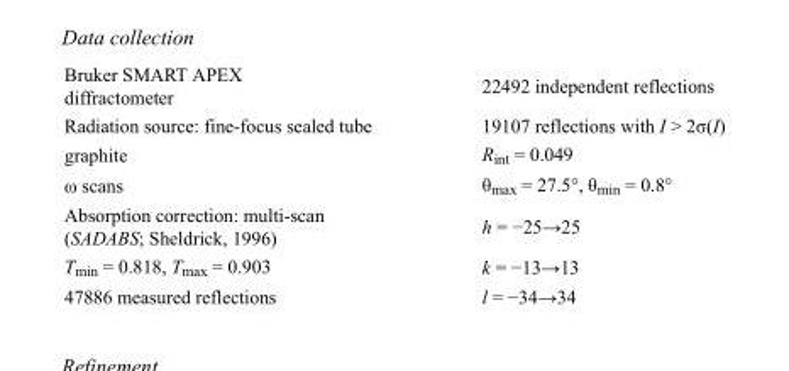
<table><tbody><tr><td>Bruker SMART APEX diffractometer</td><td>22492 independent reflections</td></tr><tr><td>Radiation source: fine-focus sealed tube</td><td>19107 reflections with I &gt; 2σ(I)</td></tr><tr><td>graphite</td><td>R<sub>int</sub> = 0.049</td></tr><tr><td>ω scans</td><td>θ<sub>max</sub> = 27.5°, θ<sub>min</sub> = 0.8°</td></tr><tr><td>Absorption correction: multi-scan (SADABS; Sheldrick, 1996)</td><td>h = −25→25</td></tr><tr><td>T<sub>min</sub> = 0.818, T<sub>max</sub> = 0.903</td><td>k = −13→13</td></tr><tr><td>47886 measured reflections</td><td>l = −34→34</td></tr></tbody></table>